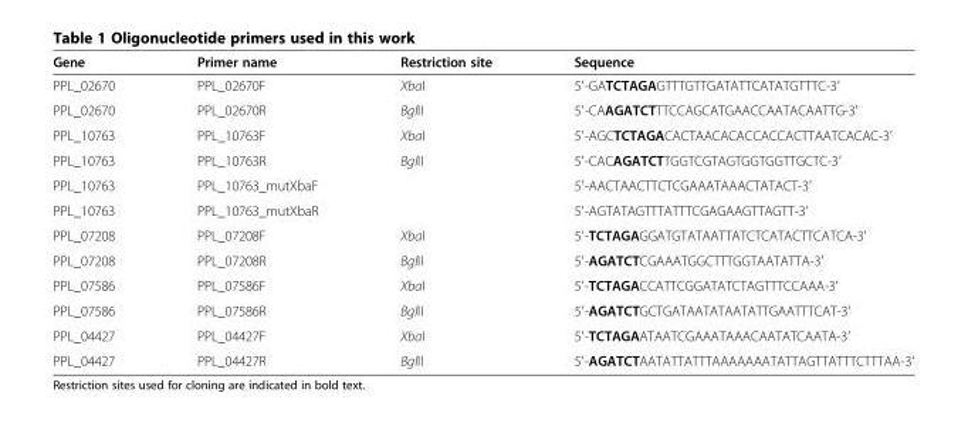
<table><thead><tr><td>Gene</td><td>Primer name</td><td>Restriction site</td><td>Sequence</td></tr></thead><tbody><tr><td>PPL_02670</td><td>PPL_02670F</td><td>XbaI</td><td>5′-GATCTAGAGTTTGTTGATATTCATATGTTTC-3′</td></tr><tr><td>PPL_02670</td><td>PPL_02670R</td><td>BglII</td><td>5′-CAAGATCTTTCCAGCATGAACCAATACAATTG-3′</td></tr><tr><td>PPL_10763</td><td>PPL_10763F</td><td>XbaI</td><td>5′-AGCTCTAGACACTAACACACCACCACTTAATCACAC-3′</td></tr><tr><td>PPL_10763</td><td>PPL_10763R</td><td>BglII</td><td>5′-CACAGATCTTGGTCGTAGTGGTGGTTGCTC-3′</td></tr><tr><td>PPL_10763</td><td>PPL_10763_mutXbaF</td><td></td><td>5′-AACTAACTTCTCGAAATAAACTATACT-3′</td></tr><tr><td>PPL_10763</td><td>PPL_10763_mutXbaR</td><td></td><td>5′-AGTATAGTTTATTTCGAGAAGTTAGTT-3′</td></tr><tr><td>PPL_07208</td><td>PPL_07208F</td><td>XbaI</td><td>5′-TCTAGAGGATGTATAATTATCTCATACTTCATCA-3′</td></tr><tr><td>PPL_07208</td><td>PPL_07208R</td><td>BglII</td><td>5′-AGATCTCGAAATGGCTTTGGTAATATTA-3′</td></tr><tr><td>PPL_07586</td><td>PPL_07586F</td><td>XbaI</td><td>5′-TCTAGACCATTCGGATATCTAGTTTCCAAA-3′</td></tr><tr><td>PPL_07586</td><td>PPL_07586R</td><td>BglII</td><td>5′-AGATCTGCTGATAATATAATATTGAATTTCAT-3′</td></tr><tr><td>PPL_04427</td><td>PPL_04427F</td><td>XbaI</td><td>5′-TCTAGAATAATCGAAATAAACAATATCAATA-3′</td></tr><tr><td>PPL_04427</td><td>PPL_04427R</td><td>BglII</td><td>5′-AGATCTAATATTATTTAAAAAAATATTAGTTATTTCTTTAA-3′</td></tr></tbody></table>